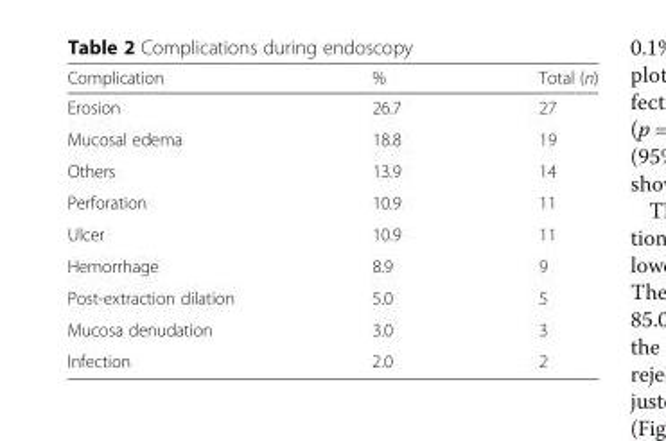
<table><thead><tr><td>Complication</td><td>%</td><td>Total (n)</td></tr></thead><tbody><tr><td>Erosion</td><td>26.7</td><td>27</td></tr><tr><td>Mucosal edema</td><td>18.8</td><td>19</td></tr><tr><td>Others</td><td>13.9</td><td>14</td></tr><tr><td>Perforation</td><td>10.9</td><td>11</td></tr><tr><td>Ulcer</td><td>10.9</td><td>11</td></tr><tr><td>Hemorrhage</td><td>8.9</td><td>9</td></tr><tr><td>Post-extraction dilation</td><td>5.0</td><td>5</td></tr><tr><td>Mucosa denudation</td><td>3.0</td><td>3</td></tr><tr><td>Infection</td><td>2.0</td><td>2</td></tr></tbody></table>